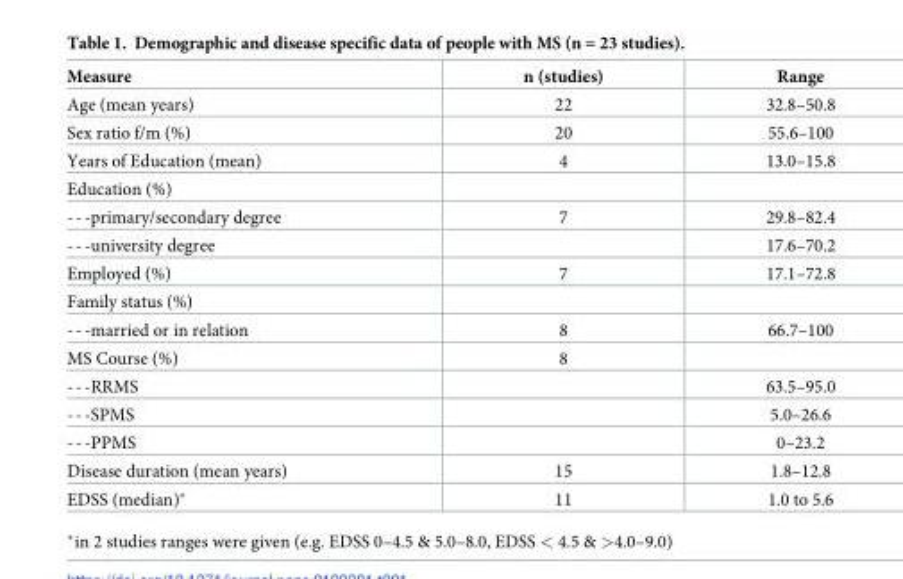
<table><thead><tr><td>Measure</td><td>n (studies)</td><td>Range</td></tr></thead><tbody><tr><td>Age (mean years)</td><td>22</td><td>32.8–50.8</td></tr><tr><td>Sex ratio f/m (%)</td><td>20</td><td>55.6–100</td></tr><tr><td>Years of Education (mean)</td><td>4</td><td>13.0–15.8</td></tr><tr><td colspan="3">Education (%)</td></tr><tr><td>---primary/secondary degree</td><td>7</td><td>29.8–82.4</td></tr><tr><td>---university degree</td><td></td><td>17.6–70.2</td></tr><tr><td>Employed (%)</td><td>7</td><td>17.1–72.8</td></tr><tr><td colspan="3">Family status (%)</td></tr><tr><td>---married or in relation</td><td>8</td><td>66.7–100</td></tr><tr><td>MS Course (%)</td><td>8</td><td></td></tr><tr><td>---RRMS</td><td></td><td>63.5–95.0</td></tr><tr><td>---SPMS</td><td></td><td>5.0–26.6</td></tr><tr><td>---PPMS</td><td></td><td>0–23.2</td></tr><tr><td>Disease duration (mean years)</td><td>15</td><td>1.8–12.8</td></tr><tr><td>EDSS (median)*</td><td>11</td><td>1.0 to 5.6</td></tr></tbody></table>